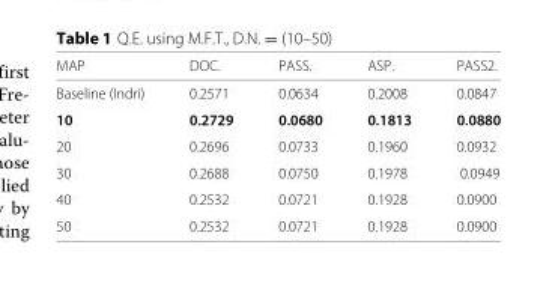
<table><thead><tr><td>MAP</td><td>DOC.</td><td>PASS.</td><td>ASP.</td><td>PASS2.</td></tr></thead><tbody><tr><td>Baseline (Indri)</td><td>0.2571</td><td>0.0634</td><td>0.2008</td><td>0.0847</td></tr><tr><td>10</td><td>0.2729</td><td>0.0680</td><td>0.1813</td><td>0.0880</td></tr><tr><td>20</td><td>0.2696</td><td>0.0733</td><td>0.1960</td><td>0.0932</td></tr><tr><td>30</td><td>0.2688</td><td>0.0750</td><td>0.1978</td><td>0.0949</td></tr><tr><td>40</td><td>0.2532</td><td>0.0721</td><td>0.1928</td><td>0.0900</td></tr><tr><td>50</td><td>0.2532</td><td>0.0721</td><td>0.1928</td><td>0.0900</td></tr></tbody></table>